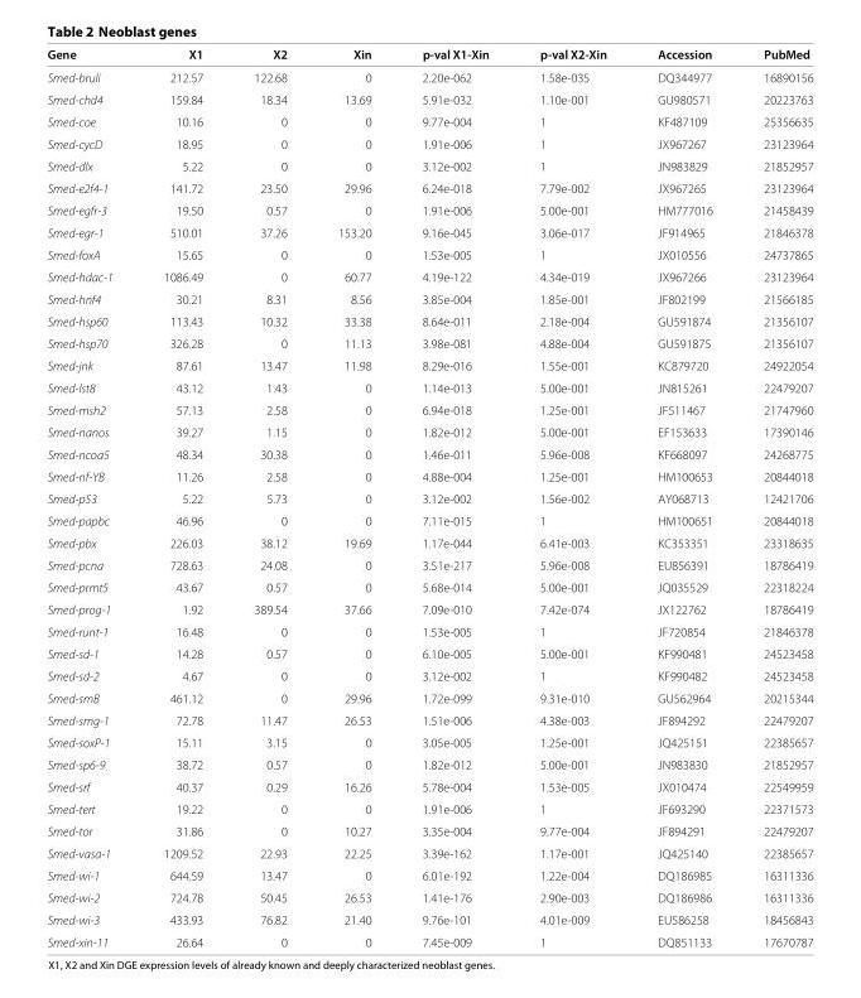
<table><thead><tr><td>Gene</td><td>X1</td><td>X2</td><td>Xin</td><td>p-val X1-Xin</td><td>p-val X2-Xin</td><td>Accession</td><td>PubMed</td></tr></thead><tbody><tr><td>Smed-bruli</td><td>212.57</td><td>122.68</td><td>0</td><td>2.20e-062</td><td>1.58e-035</td><td>DQ344977</td><td>16890156</td></tr><tr><td>Smed-chd4</td><td>159.84</td><td>18.34</td><td>13.69</td><td>5.91e-032</td><td>1.10e-001</td><td>GU980571</td><td>20223763</td></tr><tr><td>Smed-coe</td><td>10.16</td><td>0</td><td>0</td><td>9.77e-004</td><td>1</td><td>KF487109</td><td>25356635</td></tr><tr><td>Smed-cycD</td><td>18.95</td><td>0</td><td>0</td><td>1.91e-006</td><td>1</td><td>JX967267</td><td>23123964</td></tr><tr><td>Smed-dlx</td><td>5.22</td><td>0</td><td>0</td><td>3.12e-002</td><td>1</td><td>JN983829</td><td>21852957</td></tr><tr><td>Smed-e2f4-1</td><td>141.72</td><td>23.50</td><td>29.96</td><td>6.24e-018</td><td>7.79e-002</td><td>JX967265</td><td>23123964</td></tr><tr><td>Smed-egfr-3</td><td>19.50</td><td>0.57</td><td>0</td><td>1.91e-006</td><td>5.00e-001</td><td>HM777016</td><td>21458439</td></tr><tr><td>Smed-egr-1</td><td>510.01</td><td>37.26</td><td>153.20</td><td>9.16e-045</td><td>3.06e-017</td><td>JF914965</td><td>21846378</td></tr><tr><td>Smed-foxA</td><td>15.65</td><td>0</td><td>0</td><td>1.53e-005</td><td>1</td><td>JX010556</td><td>24737865</td></tr><tr><td>Smed-hdac-1</td><td>1086.49</td><td>0</td><td>60.77</td><td>4.19e-122</td><td>4.34e-019</td><td>JX967266</td><td>23123964</td></tr><tr><td>Smed-hnf4</td><td>30.21</td><td>8.31</td><td>8.56</td><td>3.85e-004</td><td>1.85e-001</td><td>JF802199</td><td>21566185</td></tr><tr><td>Smed-hsp60</td><td>113.43</td><td>10.32</td><td>33.38</td><td>8.64e-011</td><td>2.18e-004</td><td>GU591874</td><td>21356107</td></tr><tr><td>Smed-hsp70</td><td>326.28</td><td>0</td><td>11.13</td><td>3.98e-081</td><td>4.88e-004</td><td>GU591875</td><td>21356107</td></tr><tr><td>Smed-jnk</td><td>87.61</td><td>13.47</td><td>11.98</td><td>8.29e-016</td><td>1.55e-001</td><td>KC879720</td><td>24922054</td></tr><tr><td>Smed-lst8</td><td>43.12</td><td>1.43</td><td>0</td><td>1.14e-013</td><td>5.00e-001</td><td>JN815261</td><td>22479207</td></tr><tr><td>Smed-msh2</td><td>57.13</td><td>2.58</td><td>0</td><td>6.94e-018</td><td>1.25e-001</td><td>JF511467</td><td>21747960</td></tr><tr><td>Smed-nanos</td><td>39.27</td><td>1.15</td><td>0</td><td>1.82e-012</td><td>5.00e-001</td><td>EF153633</td><td>17390146</td></tr><tr><td>Smed-ncoa5</td><td>48.34</td><td>30.38</td><td>0</td><td>1.46e-011</td><td>5.96e-008</td><td>KF668097</td><td>24268775</td></tr><tr><td>Smed-nf-YB</td><td>11.26</td><td>2.58</td><td>0</td><td>4.88e-004</td><td>1.25e-001</td><td>HM100653</td><td>20844018</td></tr><tr><td>Smed-p53</td><td>5.22</td><td>5.73</td><td>0</td><td>3.12e-002</td><td>1.56e-002</td><td>AY068713</td><td>12421706</td></tr><tr><td>Smed-papbc</td><td>46.96</td><td>0</td><td>0</td><td>7.11e-015</td><td>1</td><td>HM100651</td><td>20844018</td></tr><tr><td>Smed-pbx</td><td>226.03</td><td>38.12</td><td>19.69</td><td>1.17e-044</td><td>6.41e-003</td><td>KC353351</td><td>23318635</td></tr><tr><td>Smed-pcna</td><td>728.63</td><td>24.08</td><td>0</td><td>3.51e-217</td><td>5.96e-008</td><td>EU856391</td><td>18786419</td></tr><tr><td>Smed-prmt5</td><td>43.67</td><td>0.57</td><td>0</td><td>5.68e-014</td><td>5.00e-001</td><td>JQ035529</td><td>22318224</td></tr><tr><td>Smed-prog-1</td><td>1.92</td><td>389.54</td><td>37.66</td><td>7.09e-010</td><td>7.42e-074</td><td>JX122762</td><td>18786419</td></tr><tr><td>Smed-runt-1</td><td>16.48</td><td>0</td><td>0</td><td>1.53e-005</td><td>1</td><td>JF720854</td><td>21846378</td></tr><tr><td>Smed-sd-1</td><td>14.28</td><td>0.57</td><td>0</td><td>6.10e-005</td><td>5.00e-001</td><td>KF990481</td><td>24523458</td></tr><tr><td>Smed-sd-2</td><td>4.67</td><td>0</td><td>0</td><td>3.12e-002</td><td>1</td><td>KF990482</td><td>24523458</td></tr><tr><td>Smed-smB</td><td>461.12</td><td>0</td><td>29.96</td><td>1.72e-099</td><td>9.31e-010</td><td>GU562964</td><td>20215344</td></tr><tr><td>Smed-smg-1</td><td>72.78</td><td>11.47</td><td>26.53</td><td>1.51e-006</td><td>4.38e-003</td><td>JF894292</td><td>22479207</td></tr><tr><td>Smed-soxP-1</td><td>15.11</td><td>3.15</td><td>0</td><td>3.05e-005</td><td>1.25e-001</td><td>JQ425151</td><td>22385657</td></tr><tr><td>Smed-sp6-9</td><td>38.72</td><td>0.57</td><td>0</td><td>1.82e-012</td><td>5.00e-001</td><td>JN983830</td><td>21852957</td></tr><tr><td>Smed-srf</td><td>40.37</td><td>0.29</td><td>16.26</td><td>5.78e-004</td><td>1.53e-005</td><td>JX010474</td><td>22549959</td></tr><tr><td>Smed-tert</td><td>19.22</td><td>0</td><td>0</td><td>1.91e-006</td><td>1</td><td>JF693290</td><td>22371573</td></tr><tr><td>Smed-tor</td><td>31.86</td><td>0</td><td>10.27</td><td>3.35e-004</td><td>9.77e-004</td><td>JF894291</td><td>22479207</td></tr><tr><td>Smed-vasa-1</td><td>1209.52</td><td>22.93</td><td>22.25</td><td>3.39e-162</td><td>1.17e-001</td><td>JQ425140</td><td>22385657</td></tr><tr><td>Smed-wi-1</td><td>644.59</td><td>13.47</td><td>0</td><td>6.01e-192</td><td>1.22e-004</td><td>DQ186985</td><td>16311336</td></tr><tr><td>Smed-wi-2</td><td>724.78</td><td>50.45</td><td>26.53</td><td>1.41e-176</td><td>2.90e-003</td><td>DQ186986</td><td>16311336</td></tr><tr><td>Smed-wi-3</td><td>433.93</td><td>76.82</td><td>21.40</td><td>9.76e-101</td><td>4.01e-009</td><td>EU586258</td><td>18456843</td></tr><tr><td>Smed-xin-11</td><td>26.64</td><td>0</td><td>0</td><td>7.45e-009</td><td>1</td><td>DQ851133</td><td>17670787</td></tr></tbody></table>